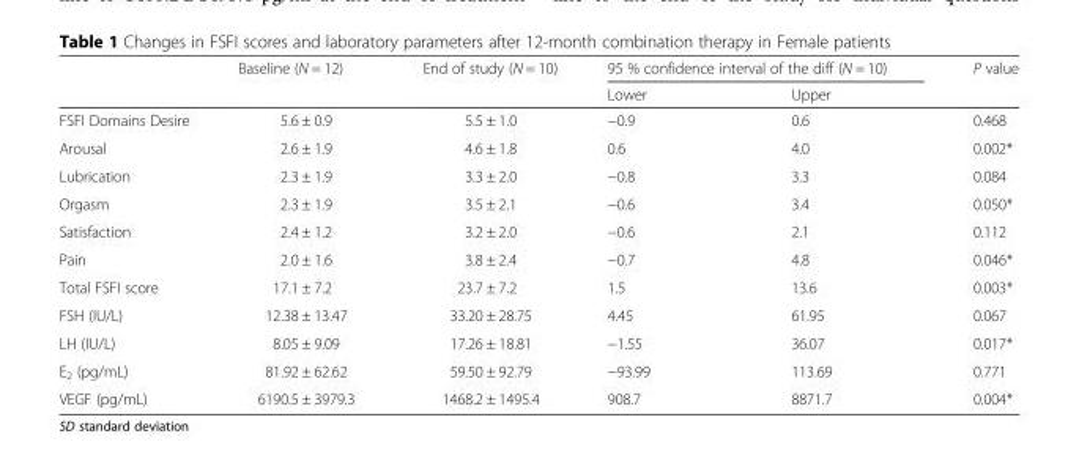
<table><thead><tr><td rowspan="2"></td><td rowspan="2">Baseline (N = 12)</td><td rowspan="2">End of study (N = 10)</td><td colspan="2">95 % confidence interval of the diff (N = 10)</td><td rowspan="2">P value</td></tr><tr><td>Lower</td><td>Upper</td></tr></thead><tbody><tr><td>FSFI Domains Desire</td><td>5.6 ± 0.9</td><td>5.5 ± 1.0</td><td>−0.9</td><td>0.6</td><td>0.468</td></tr><tr><td>Arousal</td><td>2.6 ± 1.9</td><td>4.6 ± 1.8</td><td>0.6</td><td>4.0</td><td>0.002*</td></tr><tr><td>Lubrication</td><td>2.3 ± 1.9</td><td>3.3 ± 2.0</td><td>−0.8</td><td>3.3</td><td>0.084</td></tr><tr><td>Orgasm</td><td>2.3 ± 1.9</td><td>3.5 ± 2.1</td><td>−0.6</td><td>3.4</td><td>0.050*</td></tr><tr><td>Satisfaction</td><td>2.4 ± 1.2</td><td>3.2 ± 2.0</td><td>−0.6</td><td>2.1</td><td>0.112</td></tr><tr><td>Pain</td><td>2.0 ± 1.6</td><td>3.8 ± 2.4</td><td>−0.7</td><td>4.8</td><td>0.046*</td></tr><tr><td>Total FSFI score</td><td>17.1 ± 7.2</td><td>23.7 ± 7.2</td><td>1.5</td><td>13.6</td><td>0.003*</td></tr><tr><td>FSH (IU/L)</td><td>12.38 ± 13.47</td><td>33.20 ± 28.75</td><td>4.45</td><td>61.95</td><td>0.067</td></tr><tr><td>LH (IU/L)</td><td>8.05 ± 9.09</td><td>17.26 ± 18.81</td><td>−1.55</td><td>36.07</td><td>0.017*</td></tr><tr><td>E<sub>2</sub> (pg/mL)</td><td>81.92 ± 62.62</td><td>59.50 ± 92.79</td><td>−93.99</td><td>113.69</td><td>0.771</td></tr><tr><td>VEGF (pg/mL)</td><td>6190.5 ± 3979.3</td><td>1468.2 ± 1495.4</td><td>908.7</td><td>8871.7</td><td>0.004*</td></tr></tbody></table>